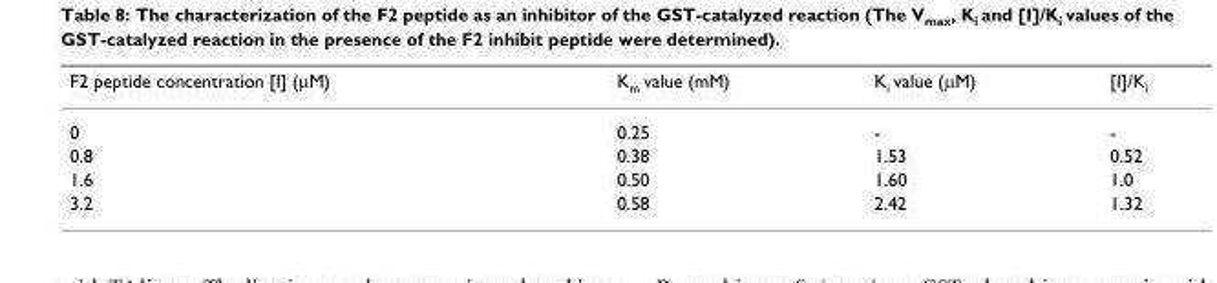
<table><thead><tr><td>F2 peptide concentration [I] (μM)</td><td>K<sub>m</sub> value (mM)</td><td>K<sub>i</sub> value (μM)</td><td>[I]/K<sub>i</sub></td></tr></thead><tbody><tr><td>0</td><td>0.25</td><td>-</td><td>-</td></tr><tr><td>0.8</td><td>0.38</td><td>1.53</td><td>0.52</td></tr><tr><td>1.6</td><td>0.50</td><td>1.60</td><td>1.0</td></tr><tr><td>3.2</td><td>0.58</td><td>2.42</td><td>1.32</td></tr></tbody></table>